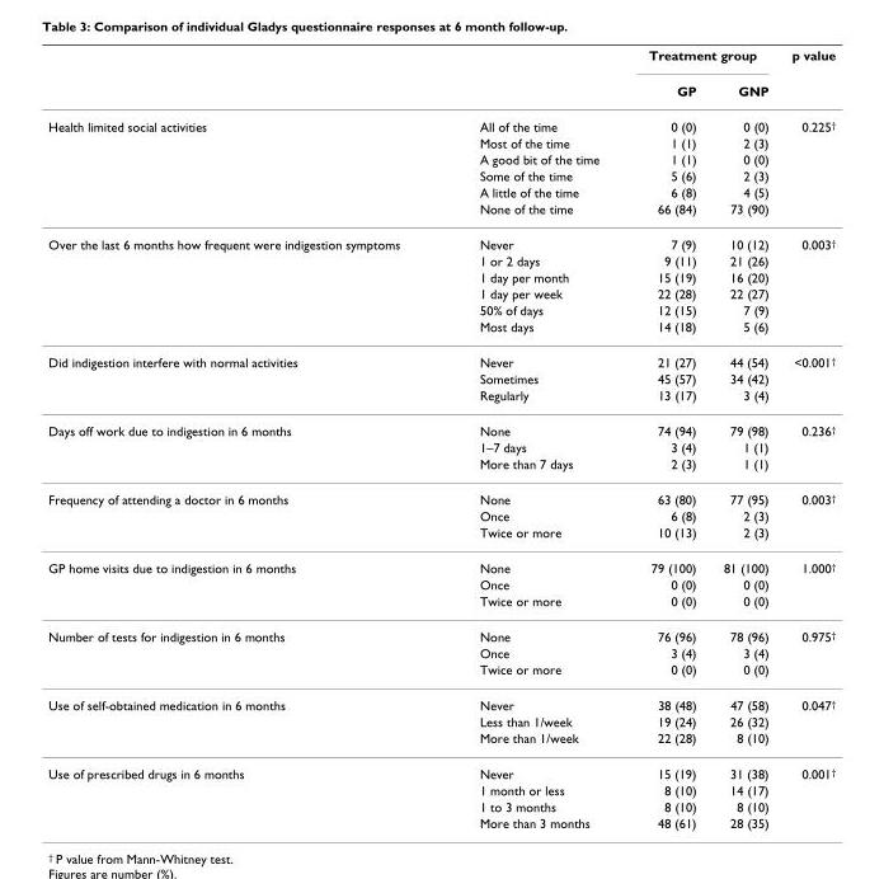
<table><thead><tr><td rowspan="2"></td><td rowspan="2"></td><td colspan="2">Treatment group</td><td rowspan="2">p value</td></tr><tr><td>GP</td><td>GNP</td></tr></thead><tbody><tr><td rowspan="6">Health limited social activities</td><td>All of the time</td><td>0 (0)</td><td>0 (0)</td><td>0.225<sup>†</sup></td></tr><tr><td>Most of the time</td><td>1 (1)</td><td>2 (3)</td><td></td></tr><tr><td>A good bit of the time</td><td>1 (1)</td><td>0 (0)</td><td></td></tr><tr><td>Some of the time</td><td>5 (6)</td><td>2 (3)</td><td></td></tr><tr><td>A little of the time</td><td>6 (8)</td><td>4 (5)</td><td></td></tr><tr><td>None of the time</td><td>66 (84)</td><td>73 (90)</td><td></td></tr><tr><td rowspan="6">Over the last 6 months how frequent were indigestion symptoms</td><td>Never</td><td>7 (9)</td><td>10 (12)</td><td>0.003<sup>†</sup></td></tr><tr><td>1 or 2 days</td><td>9 (11)</td><td>21 (26)</td><td></td></tr><tr><td>1 day per month</td><td>15 (19)</td><td>16 (20)</td><td></td></tr><tr><td>1 day per week</td><td>22 (28)</td><td>22 (27)</td><td></td></tr><tr><td>50% of days</td><td>12 (15)</td><td>7 (9)</td><td></td></tr><tr><td>Most days</td><td>14 (18)</td><td>5 (6)</td><td></td></tr><tr><td rowspan="3">Did indigestion interfere with normal activities</td><td>Never</td><td>21 (27)</td><td>44 (54)</td><td>&lt;0.001<sup>†</sup></td></tr><tr><td>Sometimes</td><td>45 (57)</td><td>34 (42)</td><td></td></tr><tr><td>Regularly</td><td>13 (17)</td><td>3 (4)</td><td></td></tr><tr><td rowspan="3">Days off work due to indigestion in 6 months</td><td>None</td><td>74 (94)</td><td>79 (98)</td><td>0.236<sup>†</sup></td></tr><tr><td>1–7 days</td><td>3 (4)</td><td>1 (1)</td><td></td></tr><tr><td>More than 7 days</td><td>2 (3)</td><td>1 (1)</td><td></td></tr><tr><td rowspan="3">Frequency of attending a doctor in 6 months</td><td>None</td><td>63 (80)</td><td>77 (95)</td><td>0.003<sup>†</sup></td></tr><tr><td>Once</td><td>6 (8)</td><td>2 (3)</td><td></td></tr><tr><td>Twice or more</td><td>10 (13)</td><td>2 (3)</td><td></td></tr><tr><td rowspan="3">GP home visits due to indigestion in 6 months</td><td>None</td><td>79 (100)</td><td>81 (100)</td><td>1.000<sup>†</sup></td></tr><tr><td>Once</td><td>0 (0)</td><td>0 (0)</td><td></td></tr><tr><td>Twice or more</td><td>0 (0)</td><td>0 (0)</td><td></td></tr><tr><td rowspan="3">Number of tests for indigestion in 6 months</td><td>None</td><td>76 (96)</td><td>78 (96)</td><td>0.975<sup>†</sup></td></tr><tr><td>Once</td><td>3 (4)</td><td>3 (4)</td><td></td></tr><tr><td>Twice or more</td><td>0 (0)</td><td>0 (0)</td><td></td></tr><tr><td rowspan="3">Use of self-obtained medication in 6 months</td><td>Never</td><td>38 (48)</td><td>47 (58)</td><td>0.047<sup>†</sup></td></tr><tr><td>Less than 1/week</td><td>19 (24)</td><td>26 (32)</td><td></td></tr><tr><td>More than 1/week</td><td>22 (28)</td><td>8 (10)</td><td></td></tr><tr><td rowspan="4">Use of prescribed drugs in 6 months</td><td>Never</td><td>15 (19)</td><td>31 (38)</td><td>0.001<sup>†</sup></td></tr><tr><td>1 month or less</td><td>8 (10)</td><td>14 (17)</td><td></td></tr><tr><td>1 to 3 months</td><td>8 (10)</td><td>8 (10)</td><td></td></tr><tr><td>More than 3 months</td><td>48 (61)</td><td>28 (35)</td><td></td></tr></tbody></table>